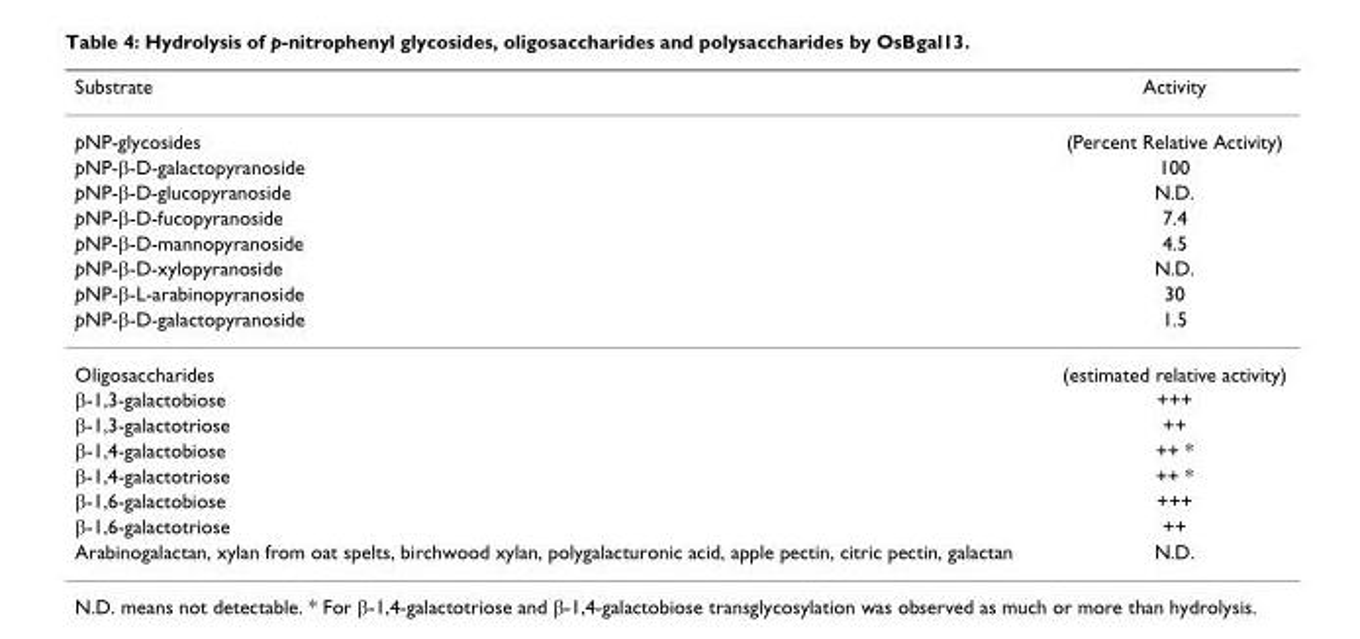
<table><thead><tr><td>Substrate</td><td>Activity</td></tr></thead><tbody><tr><td>pNP-glycosides</td><td>(Percent Relative Activity)</td></tr><tr><td>pNP-β-D-galactopyranoside</td><td>100</td></tr><tr><td>pNP-β-D-glucopyranoside</td><td>N.D.</td></tr><tr><td>pNP-β-D-fucopyranoside</td><td>7.4</td></tr><tr><td>pNP-β-D-mannopyranoside</td><td>4.5</td></tr><tr><td>pNP-β-D-xylopyranoside</td><td>N.D.</td></tr><tr><td>pNP-β-L-arabinopyranoside</td><td>30</td></tr><tr><td>pNP-β-D-galactopyranoside</td><td>1.5</td></tr><tr><td>Oligosaccharides</td><td>(estimated relative activity)</td></tr><tr><td>β-1,3-galactobiose</td><td>+++</td></tr><tr><td>β-1,3-galactotriose</td><td>++</td></tr><tr><td>β-1,4-galactobiose</td><td>++ *</td></tr><tr><td>β-1,4-galactotriose</td><td>++ *</td></tr><tr><td>β-1,6-galactobiose</td><td>+++</td></tr><tr><td>β-1,6-galactotriose</td><td>++</td></tr><tr><td>Arabinogalactan, xylan from oat spelts, birchwood xylan, polygalacturonic acid, apple pectin, citric pectin, galactan</td><td>N.D.</td></tr></tbody></table>